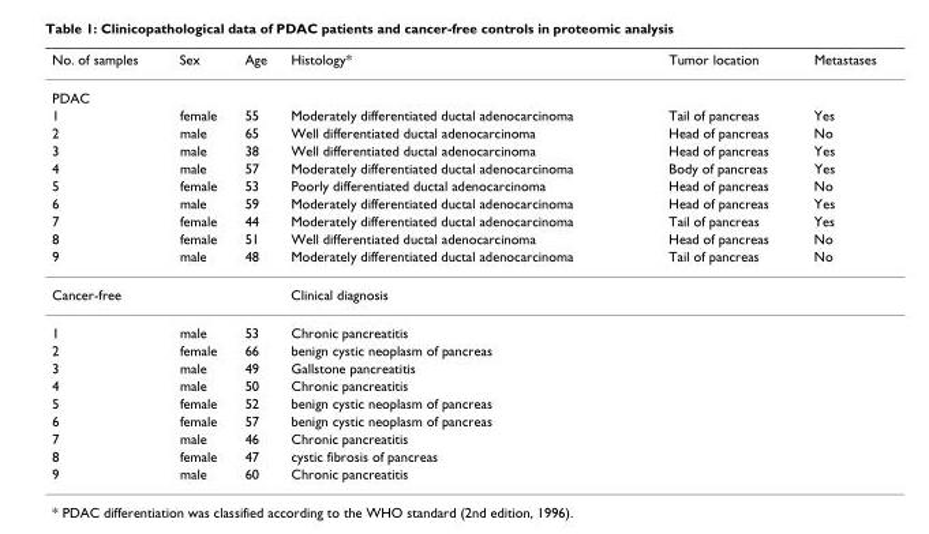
<table><thead><tr><td>No. of samples</td><td>Sex</td><td>Age</td><td>Histology*</td><td>Tumor location</td><td>Metastases</td></tr></thead><tbody><tr><td colspan="6">PDAC</td></tr><tr><td>1</td><td>female</td><td>55</td><td>Moderately differentiated ductal adenocarcinoma</td><td>Tail of pancreas</td><td>Yes</td></tr><tr><td>2</td><td>male</td><td>65</td><td>Well differentiated ductal adenocarcinoma</td><td>Head of pancreas</td><td>No</td></tr><tr><td>3</td><td>male</td><td>38</td><td>Well differentiated ductal adenocarcinoma</td><td>Head of pancreas</td><td>Yes</td></tr><tr><td>4</td><td>male</td><td>57</td><td>Moderately differentiated ductal adenocarcinoma</td><td>Body of pancreas</td><td>Yes</td></tr><tr><td>5</td><td>female</td><td>53</td><td>Poorly differentiated ductal adenocarcinoma</td><td>Head of pancreas</td><td>No</td></tr><tr><td>6</td><td>male</td><td>59</td><td>Moderately differentiated ductal adenocarcinoma</td><td>Head of pancreas</td><td>Yes</td></tr><tr><td>7</td><td>female</td><td>44</td><td>Moderately differentiated ductal adenocarcinoma</td><td>Tail of pancreas</td><td>Yes</td></tr><tr><td>8</td><td>female</td><td>51</td><td>Well differentiated ductal adenocarcinoma</td><td>Head of pancreas</td><td>No</td></tr><tr><td>9</td><td>male</td><td>48</td><td>Moderately differentiated ductal adenocarcinoma</td><td>Tail of pancreas</td><td>No</td></tr><tr><td colspan="2">Cancer-free</td><td></td><td>Clinical diagnosis</td><td></td><td></td></tr><tr><td>1</td><td>male</td><td>53</td><td>Chronic pancreatitis</td><td></td><td></td></tr><tr><td>2</td><td>female</td><td>66</td><td>benign cystic neoplasm of pancreas</td><td></td><td></td></tr><tr><td>3</td><td>male</td><td>49</td><td>Gallstone pancreatitis</td><td></td><td></td></tr><tr><td>4</td><td>male</td><td>50</td><td>Chronic pancreatitis</td><td></td><td></td></tr><tr><td>5</td><td>female</td><td>52</td><td>benign cystic neoplasm of pancreas</td><td></td><td></td></tr><tr><td>6</td><td>female</td><td>57</td><td>benign cystic neoplasm of pancreas</td><td></td><td></td></tr><tr><td>7</td><td>male</td><td>46</td><td>Chronic pancreatitis</td><td></td><td></td></tr><tr><td>8</td><td>female</td><td>47</td><td>cystic fibrosis of pancreas</td><td></td><td></td></tr><tr><td>9</td><td>male</td><td>60</td><td>Chronic pancreatitis</td><td></td><td></td></tr></tbody></table>